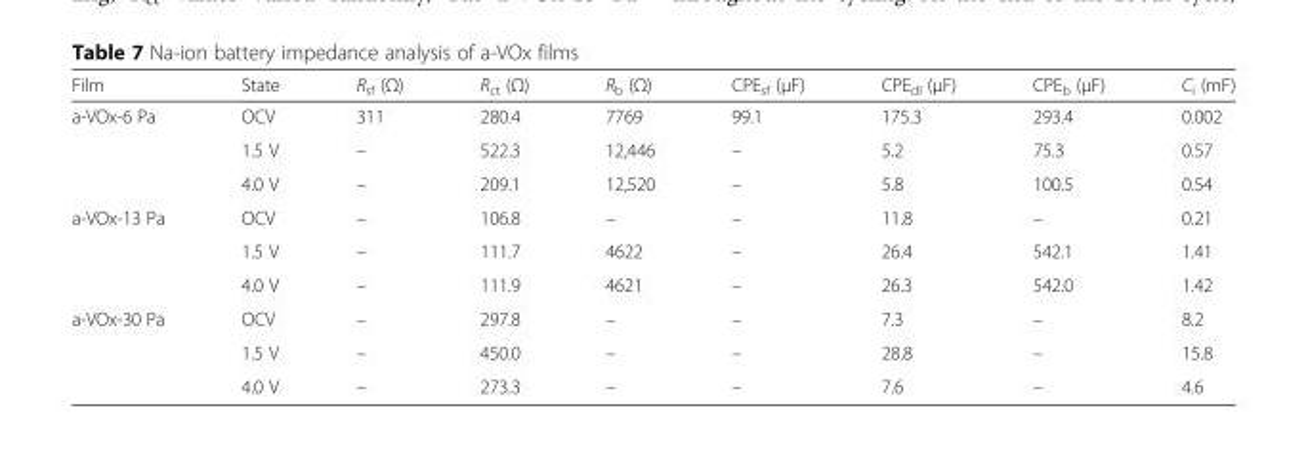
<table><thead><tr><td>Film</td><td>State</td><td>R<sub>sf</sub> (Ω)</td><td>R<sub>ct</sub> (Ω)</td><td>R<sub>b</sub> (Ω)</td><td>CPE<sub>sf</sub> (μF)</td><td>CPE<sub>dl</sub> (μF)</td><td>CPE<sub>b</sub> (μF)</td><td>C<sub>i</sub> (mF)</td></tr></thead><tbody><tr><td rowspan="3">a-VOx-6 Pa</td><td>OCV</td><td>311</td><td>280.4</td><td>7769</td><td>99.1</td><td>175.3</td><td>293.4</td><td>0.002</td></tr><tr><td>1.5 V</td><td>–</td><td>522.3</td><td>12,446</td><td>–</td><td>5.2</td><td>75.3</td><td>0.57</td></tr><tr><td>4.0 V</td><td>–</td><td>209.1</td><td>12,520</td><td>–</td><td>5.8</td><td>100.5</td><td>0.54</td></tr><tr><td rowspan="3">a-VOx-13 Pa</td><td>OCV</td><td>–</td><td>106.8</td><td>–</td><td>–</td><td>11.8</td><td>–</td><td>0.21</td></tr><tr><td>1.5 V</td><td>–</td><td>111.7</td><td>4622</td><td>–</td><td>26.4</td><td>542.1</td><td>1.41</td></tr><tr><td>4.0 V</td><td>–</td><td>111.9</td><td>4621</td><td>–</td><td>26.3</td><td>542.0</td><td>1.42</td></tr><tr><td rowspan="3">a-VOx-30 Pa</td><td>OCV</td><td>–</td><td>297.8</td><td>–</td><td>–</td><td>7.3</td><td>–</td><td>8.2</td></tr><tr><td>1.5 V</td><td>–</td><td>450.0</td><td>–</td><td>–</td><td>28.8</td><td>–</td><td>15.8</td></tr><tr><td>4.0 V</td><td>–</td><td>273.3</td><td>–</td><td>–</td><td>7.6</td><td>–</td><td>4.6</td></tr></tbody></table>